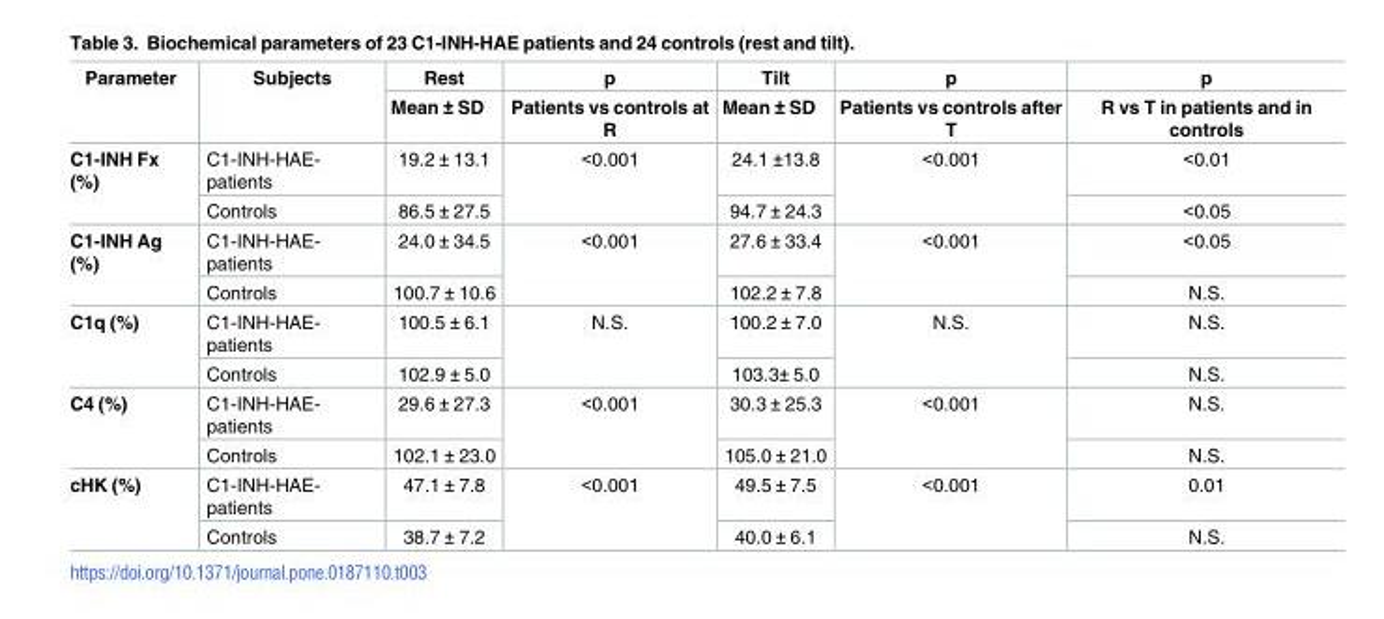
<table><thead><tr><td rowspan="2">Parameter</td><td rowspan="2">Subjects</td><td rowspan="2">Rest Mean ± SD</td><td rowspan="2">p Patients vs controls at R</td><td rowspan="2">Tilt Mean ± SD</td><td rowspan="2">p Patients vs controls after T</td><td rowspan="2">p R vs T in patients and in controls</td></tr><tr></tr></thead><tbody><tr><td rowspan="2">C1-INH Fx (%)</td><td>C1-INH-HAE- patients</td><td>19.2 ± 13.1</td><td rowspan="2">&lt;0.001</td><td>24.1 ±13.8</td><td rowspan="2">&lt;0.001</td><td>&lt;0.01</td></tr><tr><td>Controls</td><td>86.5 ± 27.5</td><td>94.7 ± 24.3</td><td>&lt;0.05</td></tr><tr><td rowspan="2">C1-INH Ag (%)</td><td>C1-INH-HAE- patients</td><td>24.0 ± 34.5</td><td rowspan="2">&lt;0.001</td><td>27.6 ± 33.4</td><td rowspan="2">&lt;0.001</td><td>&lt;0.05</td></tr><tr><td>Controls</td><td>100.7 ± 10.6</td><td>102.2 ± 7.8</td><td>N.S.</td></tr><tr><td rowspan="2">C1q (%)</td><td>C1-INH-HAE- patients</td><td>100.5 ± 6.1</td><td rowspan="2">N.S.</td><td>100.2 ± 7.0</td><td rowspan="2">N.S.</td><td>N.S.</td></tr><tr><td>Controls</td><td>102.9 ± 5.0</td><td>103.3± 5.0</td><td>N.S.</td></tr><tr><td rowspan="2">C4 (%)</td><td>C1-INH-HAE- patients</td><td>29.6 ± 27.3</td><td rowspan="2">&lt;0.001</td><td>30.3 ± 25.3</td><td rowspan="2">&lt;0.001</td><td>N.S.</td></tr><tr><td>Controls</td><td>102.1 ± 23.0</td><td>105.0 ± 21.0</td><td>N.S.</td></tr><tr><td rowspan="2">cHK (%)</td><td>C1-INH-HAE- patients</td><td>47.1 ± 7.8</td><td rowspan="2">&lt;0.001</td><td>49.5 ± 7.5</td><td rowspan="2">&lt;0.001</td><td>0.01</td></tr><tr><td>Controls</td><td>38.7 ± 7.2</td><td>40.0 ± 6.1</td><td>N.S.</td></tr></tbody></table>